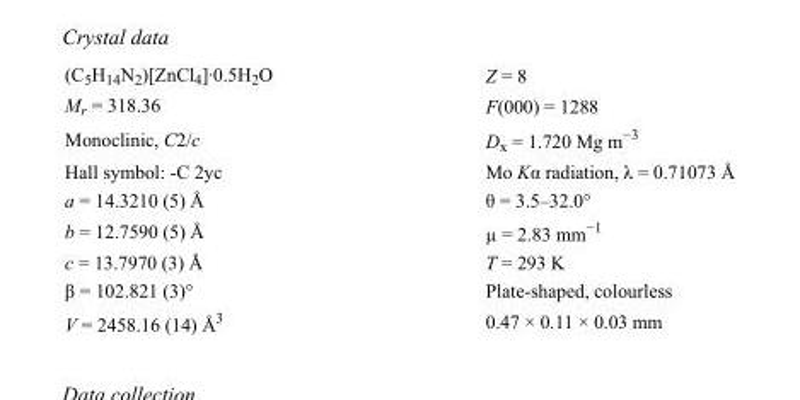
<table><tbody><tr><td>(C<sub>5</sub>H<sub>14</sub>N<sub>2</sub>)[ZnCl<sub>4</sub>]·0.5H<sub>2</sub>O</td><td>Z = 8</td></tr><tr><td>M<sub>r</sub> = 318.36</td><td>F(000) = 1288</td></tr><tr><td>Monoclinic, C2/c</td><td>D<sub>x</sub> = 1.720 Mg m<sup>−3</sup></td></tr><tr><td>Hall symbol: -C 2yc</td><td>Mo Kα radiation, λ = 0.71073 Å</td></tr><tr><td>a = 14.3210 (5) Å</td><td>θ = 3.5–32.0°</td></tr><tr><td>b = 12.7590 (5) Å</td><td>µ = 2.83 mm<sup>−1</sup></td></tr><tr><td>c = 13.7970 (3) Å</td><td>T = 293 K</td></tr><tr><td>β = 102.821 (3)°</td><td>Plate-shaped, colourless</td></tr><tr><td>V = 2458.16 (14) Å<sup>3</sup></td><td>0.47 × 0.11 × 0.03 mm</td></tr></tbody></table>